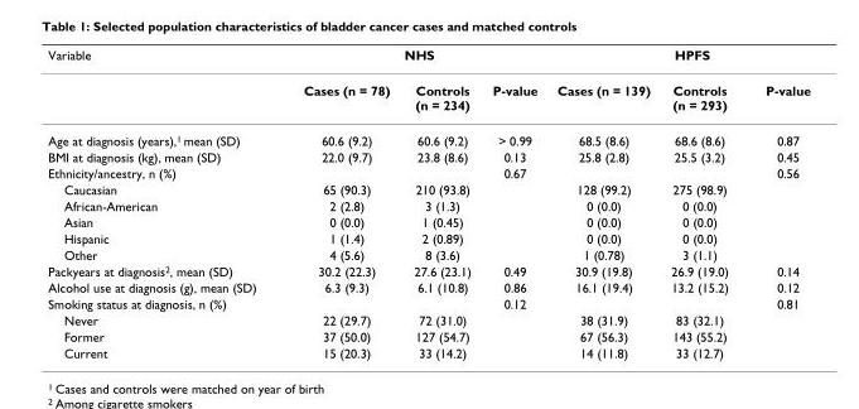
<table><thead><tr><td rowspan="2">Variable</td><td colspan="3">NHS</td><td colspan="3">HPFS</td></tr><tr><td>Cases (n = 78)</td><td>Controls (n = 234)</td><td>P-value</td><td>Cases (n = 139)</td><td>Controls (n = 293)</td><td>P-value</td></tr></thead><tbody><tr><td>Age at diagnosis (years),1 mean (SD)</td><td>60.6 (9.2)</td><td>60.6 (9.2)</td><td>&gt; 0.99</td><td>68.5 (8.6)</td><td>68.6 (8.6)</td><td>0.87</td></tr><tr><td>BMI at diagnosis (kg), mean (SD)</td><td>22.0 (9.7)</td><td>23.8 (8.6)</td><td>0.13</td><td>25.8 (2.8)</td><td>25.5 (3.2)</td><td>0.45</td></tr><tr><td>Ethnicity/ancestry, n (%)</td><td></td><td></td><td>0.67</td><td></td><td></td><td>0.56</td></tr><tr><td>Caucasian</td><td>65 (90.3)</td><td>210 (93.8)</td><td></td><td>128 (99.2)</td><td>275 (98.9)</td><td></td></tr><tr><td>African-American</td><td>2 (2.8)</td><td>3 (1.3)</td><td></td><td>0 (0.0)</td><td>0 (0.0)</td><td></td></tr><tr><td>Asian</td><td>0 (0.0)</td><td>1 (0.45)</td><td></td><td>0 (0.0)</td><td>0 (0.0)</td><td></td></tr><tr><td>Hispanic</td><td>1 (1.4)</td><td>2 (0.89)</td><td></td><td>0 (0.0)</td><td>0 (0.0)</td><td></td></tr><tr><td>Other</td><td>4 (5.6)</td><td>8 (3.6)</td><td></td><td>1 (0.78)</td><td>3 (1.1)</td><td></td></tr><tr><td>Packyears at diagnosis2, mean (SD)</td><td>30.2 (22.3)</td><td>27.6 (23.1)</td><td>0.49</td><td>30.9 (19.8)</td><td>26.9 (19.0)</td><td>0.14</td></tr><tr><td>Alcohol use at diagnosis (g), mean (SD)</td><td>6.3 (9.3)</td><td>6.1 (10.8)</td><td>0.86</td><td>16.1 (19.4)</td><td>13.2 (15.2)</td><td>0.12</td></tr><tr><td>Smoking status at diagnosis, n (%)</td><td></td><td></td><td>0.12</td><td></td><td></td><td>0.81</td></tr><tr><td>Never</td><td>22 (29.7)</td><td>72 (31.0)</td><td></td><td>38 (31.9)</td><td>83 (32.1)</td><td></td></tr><tr><td>Former</td><td>37 (50.0)</td><td>127 (54.7)</td><td></td><td>67 (56.3)</td><td>143 (55.2)</td><td></td></tr><tr><td>Current</td><td>15 (20.3)</td><td>33 (14.2)</td><td></td><td>14 (11.8)</td><td>33 (12.7)</td><td></td></tr></tbody></table>